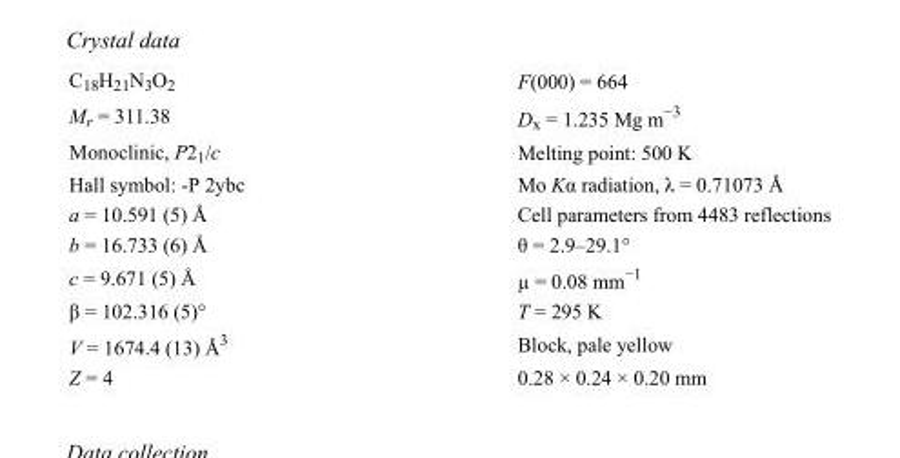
<table><tbody><tr><td>C<sub>18</sub>H<sub>21</sub>N<sub>3</sub>O<sub>2</sub></td><td>F(000) = 664</td></tr><tr><td>M<sub>r</sub> = 311.38</td><td>D<sub>x</sub> = 1.235 Mg m<sup>−3</sup></td></tr><tr><td>Monoclinic, P2<sub>1</sub>/c</td><td>Melting point: 500 K</td></tr><tr><td>Hall symbol: -P 2ybc</td><td>Mo Kα radiation, λ = 0.71073 Å</td></tr><tr><td>a = 10.591 (5) Å</td><td>Cell parameters from 4483 reflections</td></tr><tr><td>b = 16.733 (6) Å</td><td>θ = 2.9–29.1°</td></tr><tr><td>c = 9.671 (5) Å</td><td>µ = 0.08 mm<sup>−1</sup></td></tr><tr><td>β = 102.316 (5)°</td><td>T = 295 K</td></tr><tr><td>V = 1674.4 (13) Å<sup>3</sup></td><td>Block, pale yellow</td></tr><tr><td>Z = 4</td><td>0.28 × 0.24 × 0.20 mm</td></tr></tbody></table>